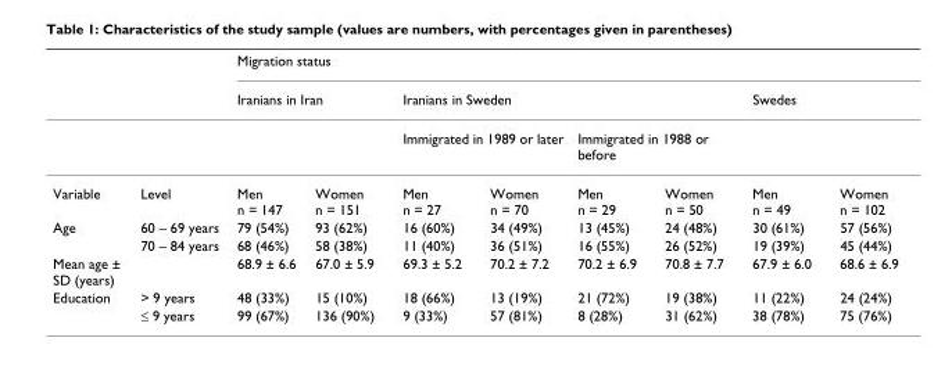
<table><thead><tr><td rowspan="4">Variable</td><td rowspan="4">Level</td><td colspan="8">Migration status</td></tr><tr><td colspan="2">Iranians in Iran</td><td colspan="4">Iranians in Sweden</td><td colspan="2">Swedes</td></tr><tr><td rowspan="2">Men n = 147</td><td rowspan="2">Women n = 151</td><td colspan="2">Immigrated in 1989 or later</td><td colspan="2">Immigrated in 1988 or before</td><td rowspan="2">Men n = 49</td><td rowspan="2">Women n = 102</td></tr><tr><td>Men n = 27</td><td>Women n = 70</td><td>Men n = 29</td><td>Women n = 50</td></tr></thead><tbody><tr><td rowspan="2">Age</td><td>60 – 69 years</td><td>79 (54%)</td><td>93 (62%)</td><td>16 (60%)</td><td>34 (49%)</td><td>13 (45%)</td><td>24 (48%)</td><td>30 (61%)</td><td>57 (56%)</td></tr><tr><td>70 – 84 years</td><td>68 (46%)</td><td>58 (38%)</td><td>11 (40%)</td><td>36 (51%)</td><td>16 (55%)</td><td>26 (52%)</td><td>19 (39%)</td><td>45 (44%)</td></tr><tr><td>Mean age ± SD (years)</td><td></td><td>68.9 ± 6.6</td><td>67.0 ± 5.9</td><td>69.3 ± 5.2</td><td>70.2 ± 7.2</td><td>70.2 ± 6.9</td><td>70.8 ± 7.7</td><td>67.9 ± 6.0</td><td>68.6 ± 6.9</td></tr><tr><td rowspan="2">Education</td><td>&gt; 9 years</td><td>48 (33%)</td><td>15 (10%)</td><td>18 (66%)</td><td>13 (19%)</td><td>21 (72%)</td><td>19 (38%)</td><td>11 (22%)</td><td>24 (24%)</td></tr><tr><td>≤ 9 years</td><td>99 (67%)</td><td>136 (90%)</td><td>9 (33%)</td><td>57 (81%)</td><td>8 (28%)</td><td>31 (62%)</td><td>38 (78%)</td><td>75 (76%)</td></tr></tbody></table>